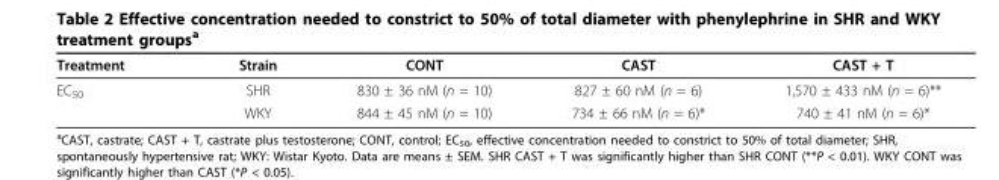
<table><thead><tr><td>Treatment</td><td>Strain</td><td>CONT</td><td>CAST</td><td>CAST + T</td></tr></thead><tbody><tr><td rowspan="2">EC<sub>50</sub></td><td>SHR</td><td>830 ± 36 nM (n = 10)</td><td>827 ± 60 nM (n = 6)</td><td>1,570 ± 433 nM (n = 6)**</td></tr><tr><td>WKY</td><td>844 ± 45 nM (n = 10)</td><td>734 ± 66 nM (n = 6)*</td><td>740 ± 41 nM (n = 6)*</td></tr></tbody></table>